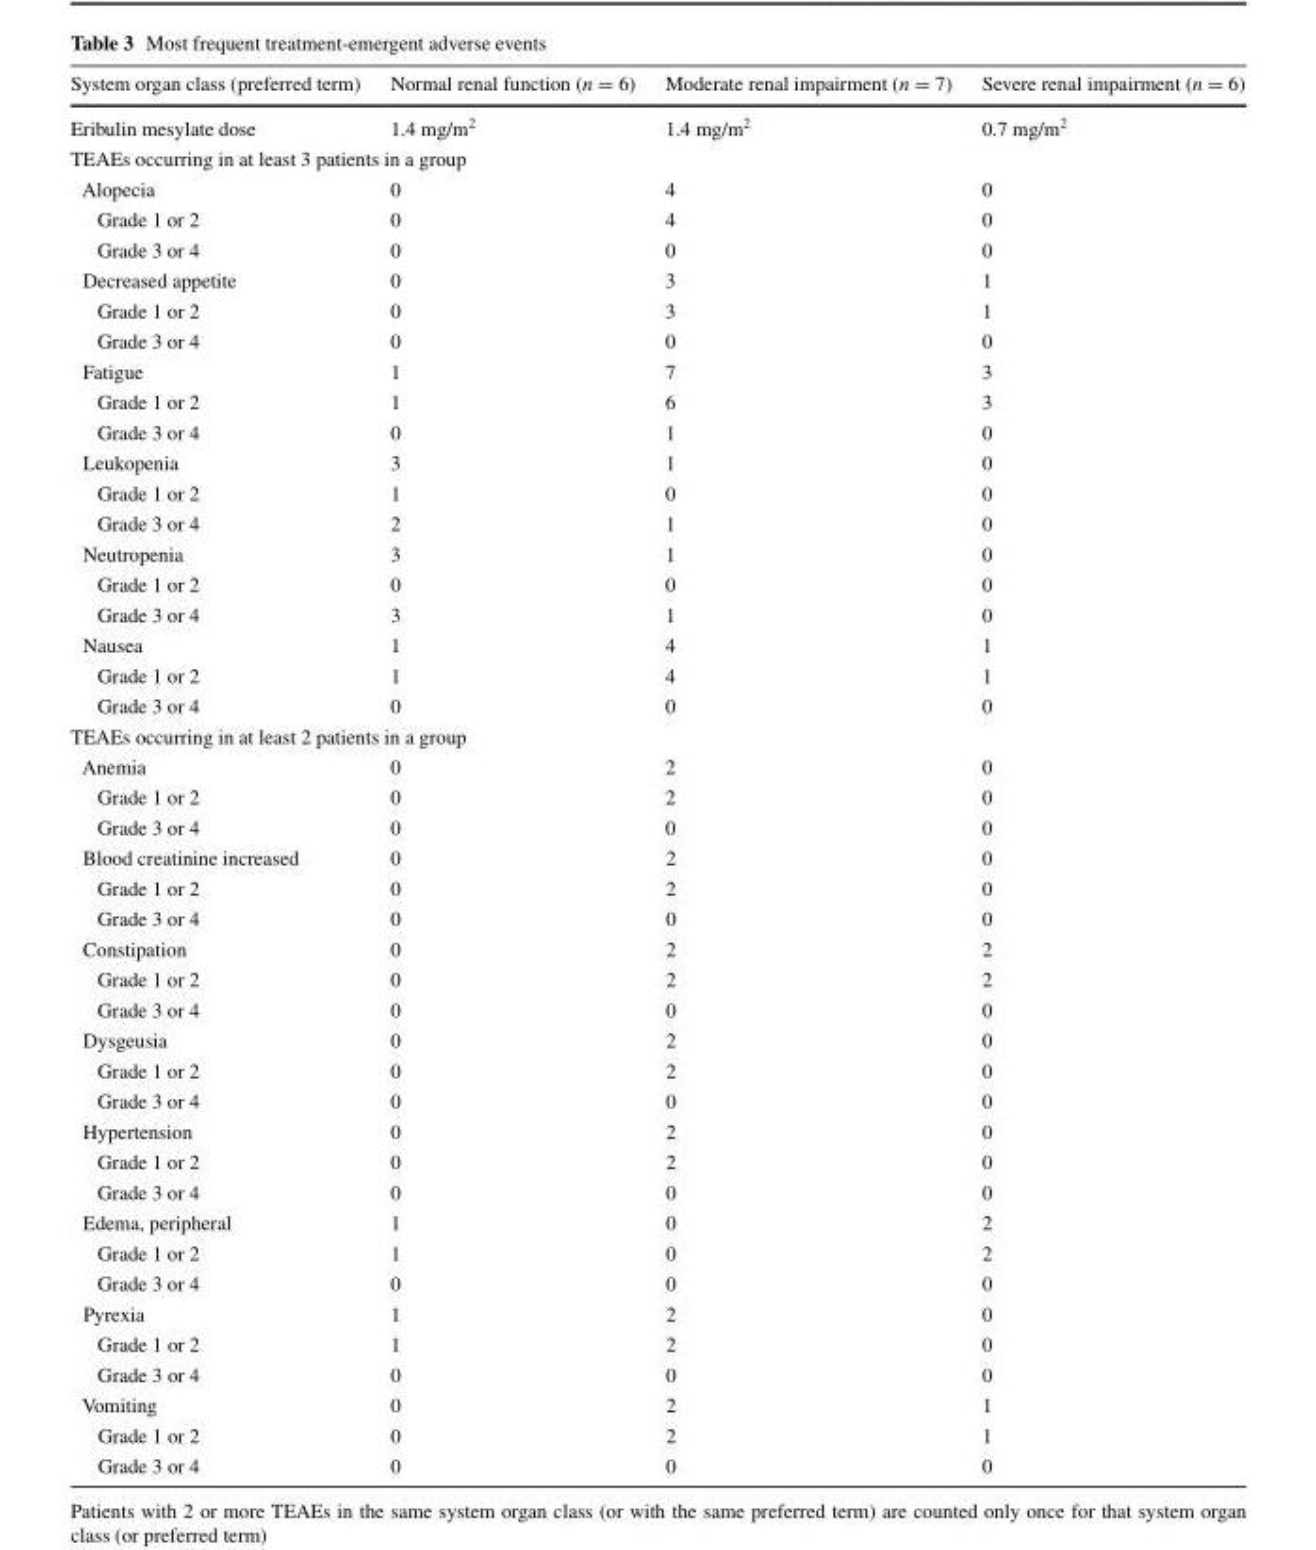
<table><thead><tr><td>System organ class (preferred term)</td><td>Normal renal function (n = 6)</td><td>Moderate renal impairment (n = 7)</td><td>Severe renal impairment (n = 6)</td></tr></thead><tbody><tr><td>Eribulin mesylate dose</td><td>1.4 mg/m<sup>2</sup></td><td>1.4 mg/m<sup>2</sup></td><td>0.7 mg/m<sup>2</sup></td></tr><tr><td colspan="4">TEAEs occurring in at least 3 patients in a group</td></tr><tr><td>Alopecia</td><td>0</td><td>4</td><td>0</td></tr><tr><td>Grade 1 or 2</td><td>0</td><td>4</td><td>0</td></tr><tr><td>Grade 3 or 4</td><td>0</td><td>0</td><td>0</td></tr><tr><td>Decreased appetite</td><td>0</td><td>3</td><td>1</td></tr><tr><td>Grade 1 or 2</td><td>0</td><td>3</td><td>1</td></tr><tr><td>Grade 3 or 4</td><td>0</td><td>0</td><td>0</td></tr><tr><td>Fatigue</td><td>1</td><td>7</td><td>3</td></tr><tr><td>Grade 1 or 2</td><td>1</td><td>6</td><td>3</td></tr><tr><td>Grade 3 or 4</td><td>0</td><td>1</td><td>0</td></tr><tr><td>Leukopenia</td><td>3</td><td>1</td><td>0</td></tr><tr><td>Grade 1 or 2</td><td>1</td><td>0</td><td>0</td></tr><tr><td>Grade 3 or 4</td><td>2</td><td>1</td><td>0</td></tr><tr><td>Neutropenia</td><td>3</td><td>1</td><td>0</td></tr><tr><td>Grade 1 or 2</td><td>0</td><td>0</td><td>0</td></tr><tr><td>Grade 3 or 4</td><td>3</td><td>1</td><td>0</td></tr><tr><td>Nausea</td><td>1</td><td>4</td><td>1</td></tr><tr><td>Grade 1 or 2</td><td>1</td><td>4</td><td>1</td></tr><tr><td>Grade 3 or 4</td><td>0</td><td>0</td><td>0</td></tr><tr><td colspan="4">TEAEs occurring in at least 2 patients in a group</td></tr><tr><td>Anemia</td><td>0</td><td>2</td><td>0</td></tr><tr><td>Grade 1 or 2</td><td>0</td><td>2</td><td>0</td></tr><tr><td>Grade 3 or 4</td><td>0</td><td>0</td><td>0</td></tr><tr><td>Blood creatinine increased</td><td>0</td><td>2</td><td>0</td></tr><tr><td>Grade 1 or 2</td><td>0</td><td>2</td><td>0</td></tr><tr><td>Grade 3 or 4</td><td>0</td><td>0</td><td>0</td></tr><tr><td>Constipation</td><td>0</td><td>2</td><td>2</td></tr><tr><td>Grade 1 or 2</td><td>0</td><td>2</td><td>2</td></tr><tr><td>Grade 3 or 4</td><td>0</td><td>0</td><td>0</td></tr><tr><td>Dysgeusia</td><td>0</td><td>2</td><td>0</td></tr><tr><td>Grade 1 or 2</td><td>0</td><td>2</td><td>0</td></tr><tr><td>Grade 3 or 4</td><td>0</td><td>0</td><td>0</td></tr><tr><td>Hypertension</td><td>0</td><td>2</td><td>0</td></tr><tr><td>Grade 1 or 2</td><td>0</td><td>2</td><td>0</td></tr><tr><td>Grade 3 or 4</td><td>0</td><td>0</td><td>0</td></tr><tr><td>Edema, peripheral</td><td>1</td><td>0</td><td>2</td></tr><tr><td>Grade 1 or 2</td><td>1</td><td>0</td><td>2</td></tr><tr><td>Grade 3 or 4</td><td>0</td><td>0</td><td>0</td></tr><tr><td>Pyrexia</td><td>1</td><td>2</td><td>0</td></tr><tr><td>Grade 1 or 2</td><td>1</td><td>2</td><td>0</td></tr><tr><td>Grade 3 or 4</td><td>0</td><td>0</td><td>0</td></tr><tr><td>Vomiting</td><td>0</td><td>2</td><td>1</td></tr><tr><td>Grade 1 or 2</td><td>0</td><td>2</td><td>1</td></tr><tr><td>Grade 3 or 4</td><td>0</td><td>0</td><td>0</td></tr></tbody></table>